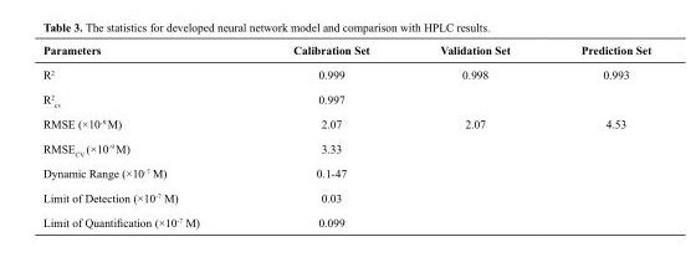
<table><thead><tr><td>Parameters</td><td>Calibration Set</td><td>Validation Set</td><td>Prediction Set</td></tr></thead><tbody><tr><td>R<sup>2</sup></td><td>0.999</td><td>0.998</td><td>0.993</td></tr><tr><td>R<sup>2</sup> <sub>cv</sub></td><td>0.997</td><td></td><td></td></tr><tr><td>RMSE (×10<sup>-9</sup> M)</td><td>2.07</td><td>2.07</td><td>4.53</td></tr><tr><td>RMSE<sub>CV</sub> (×10<sup>-9</sup> M)</td><td>3.33</td><td></td><td></td></tr><tr><td>Dynamic Range (×10<sup>-7</sup> M)</td><td>0.1-47</td><td></td><td></td></tr><tr><td>Limit of Detection (×10<sup>-7</sup> M)</td><td>0.03</td><td></td><td></td></tr><tr><td>Limit of Quantification (×10<sup>-7</sup> M)</td><td>0.099</td><td></td><td></td></tr></tbody></table>